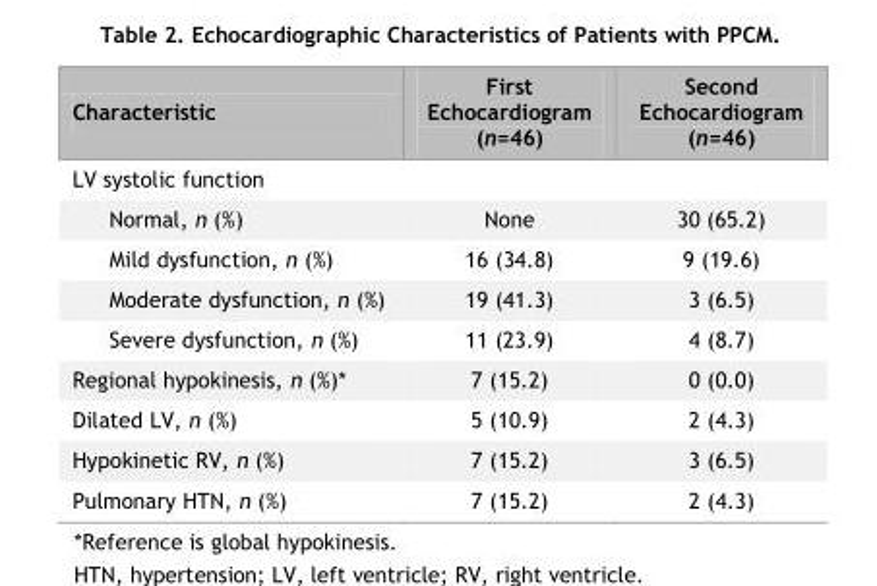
<table><thead><tr><td>Characteristic</td><td>First Echocardiogram (n=46)</td><td>Second Echocardiogram (n=46)</td></tr></thead><tbody><tr><td colspan="3">LV systolic function</td></tr><tr><td>Normal, n (%)</td><td>None</td><td>30 (65.2)</td></tr><tr><td>Mild dysfunction, n (%)</td><td>16 (34.8)</td><td>9 (19.6)</td></tr><tr><td>Moderate dysfunction, n (%)</td><td>19 (41.3)</td><td>3 (6.5)</td></tr><tr><td>Severe dysfunction, n (%)</td><td>11 (23.9)</td><td>4 (8.7)</td></tr><tr><td>Regional hypokinesis, n (%)*</td><td>7 (15.2)</td><td>0 (0.0)</td></tr><tr><td>Dilated LV, n (%)</td><td>5 (10.9)</td><td>2 (4.3)</td></tr><tr><td>Hypokinetic RV, n (%)</td><td>7 (15.2)</td><td>3 (6.5)</td></tr><tr><td>Pulmonary HTN, n (%)</td><td>7 (15.2)</td><td>2 (4.3)</td></tr></tbody></table>